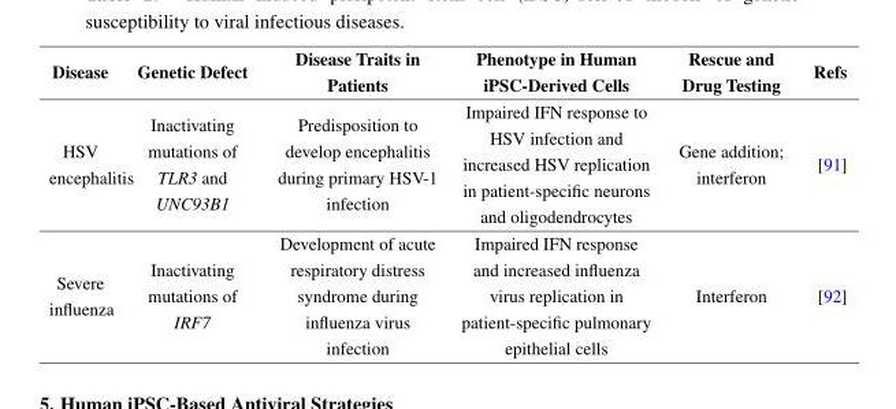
<table><thead><tr><td>Disease</td><td>Genetic Defect</td><td>Disease Traits in Patients</td><td>Phenotype in Human iPSC-Derived Cells</td><td>Rescue and Drug Testing</td><td>Refs</td></tr></thead><tbody><tr><td>HSV encephalitis</td><td>Inactivating mutations of TLR3 and UNC93B1</td><td>Predisposition to develop encephalitis during primary HSV-1 infection</td><td>Impaired IFN response to HSV infection and increased HSV replication in patient-specific neurons and oligodendrocytes</td><td>Gene addition; interferon</td><td>[91]</td></tr><tr><td>Severe influenza</td><td>Inactivating mutations of IRF7</td><td>Development of acute respiratory distress syndrome during influenza virus infection</td><td>Impaired IFN response and increased influenza virus replication in patient-specific pulmonary epithelial cells</td><td>Interferon</td><td>[92]</td></tr></tbody></table>